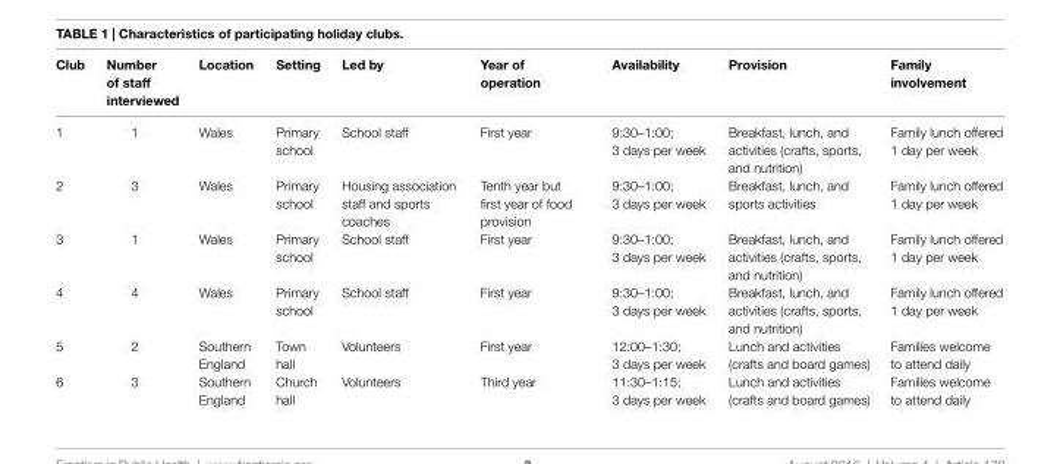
<table><thead><tr><td>club</td><td>number of staff interviewed</td><td>location</td><td>setting</td><td>led by</td><td>Year of operation</td><td>availability</td><td>Provision</td><td>Family involvement</td></tr></thead><tbody><tr><td>1</td><td>1</td><td>Wales</td><td>Primary school</td><td>School staff</td><td>First year</td><td>9:30–1:00; 3 days per week</td><td>Breakfast, lunch, and activities (crafts, sports, and nutrition)</td><td>Family lunch offered 1 day per week</td></tr><tr><td>2</td><td>3</td><td>Wales</td><td>Primary school</td><td>Housing association staff and sports coaches</td><td>Tenth year but first year of food provision</td><td>9:30–1:00; 3 days per week</td><td>Breakfast, lunch, and sports activities</td><td>Family lunch offered 1 day per week</td></tr><tr><td>3</td><td>1</td><td>Wales</td><td>Primary school</td><td>School staff</td><td>First year</td><td>9:30–1:00; 3 days per week</td><td>Breakfast, lunch, and activities (crafts, sports, and nutrition)</td><td>Family lunch offered 1 day per week</td></tr><tr><td>4</td><td>4</td><td>Wales</td><td>Primary school</td><td>School staff</td><td>First year</td><td>9:30–1:00; 3 days per week</td><td>Breakfast, lunch, and activities (crafts, sports, and nutrition)</td><td>Family lunch offered 1 day per week</td></tr><tr><td>5</td><td>2</td><td>Southern England</td><td>Town hall</td><td>Volunteers</td><td>First year</td><td>12:00–1:30; 3 days per week</td><td>Lunch and activities (crafts and board games)</td><td>Families welcome to attend daily</td></tr><tr><td>6</td><td>3</td><td>Southern England</td><td>Church hall</td><td>Volunteers</td><td>Third year</td><td>11:30–1:15; 3 days per week</td><td>Lunch and activities (crafts and board games)</td><td>Families welcome to attend daily</td></tr></tbody></table>